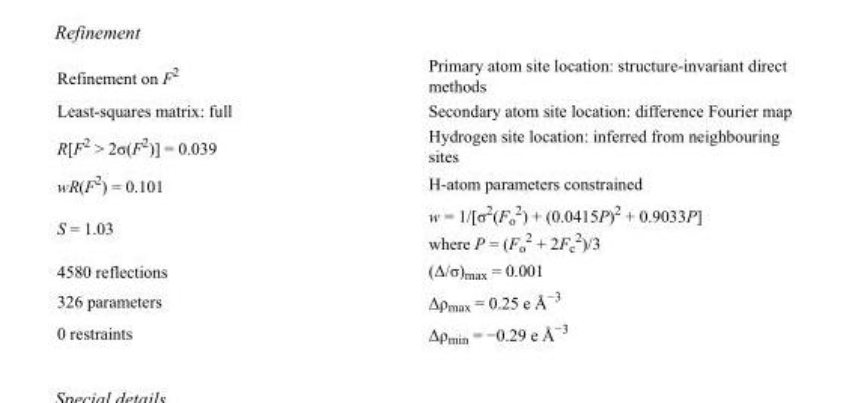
<table><tbody><tr><td>Refinement on F<sup>2</sup></td><td>Primary atom site location: structure-invariant direct methods</td></tr><tr><td>Least-squares matrix: full</td><td>Secondary atom site location: difference Fourier map</td></tr><tr><td>R[F<sup>2</sup> &gt; 2σ(F<sup>2</sup>)] = 0.039</td><td>Hydrogen site location: inferred from neighbouring sites</td></tr><tr><td>wR(F<sup>2</sup>) = 0.101</td><td>H-atom parameters constrained</td></tr><tr><td>S = 1.03</td><td>w = 1/[σ<sup>2</sup>(F<sub>o</sub> <sup>2</sup>) + (0.0415P)<sup>2</sup> + 0.9033P] where P = (F<sub>o</sub> <sup>2</sup> + 2F<sub>c</sub> <sup>2</sup>)/3</td></tr><tr><td>4580 reflections</td><td>(Δ/σ)<sub>max</sub> = 0.001</td></tr><tr><td>326 parameters</td><td>Δρ<sub>max</sub> = 0.25 e Å<sup>−3</sup></td></tr><tr><td>0 restraints</td><td>Δρ<sub>min</sub> = −0.29 e Å<sup>−3</sup></td></tr></tbody></table>